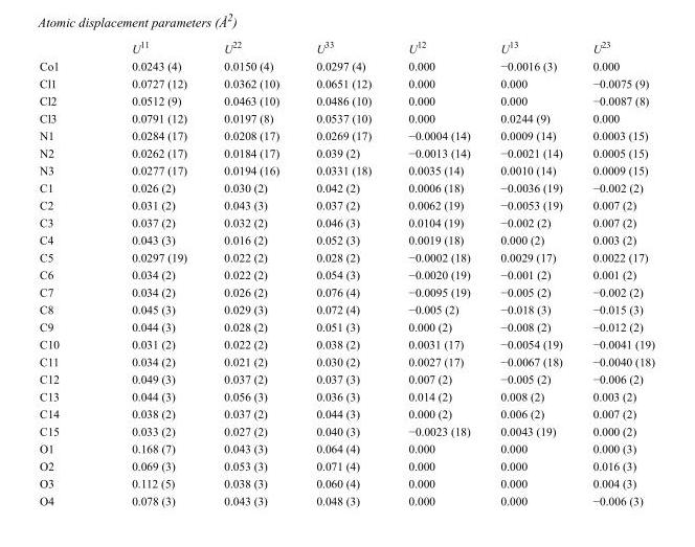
<table><thead><tr><td></td><td>U<sup>11</sup></td><td>U<sup>22</sup></td><td>U<sup>33</sup></td><td>U<sup>12</sup></td><td>U<sup>13</sup></td><td>U<sup>23</sup></td></tr></thead><tbody><tr><td>Co1</td><td>0.0243 (4)</td><td>0.0150 (4)</td><td>0.0297 (4)</td><td>0.000</td><td>−0.0016 (3)</td><td>0.000</td></tr><tr><td>Cl1</td><td>0.0727 (12)</td><td>0.0362 (10)</td><td>0.0651 (12)</td><td>0.000</td><td>0.000</td><td>−0.0075 (9)</td></tr><tr><td>Cl2</td><td>0.0512 (9)</td><td>0.0463 (10)</td><td>0.0486 (10)</td><td>0.000</td><td>0.000</td><td>−0.0087 (8)</td></tr><tr><td>Cl3</td><td>0.0791 (12)</td><td>0.0197 (8)</td><td>0.0537 (10)</td><td>0.000</td><td>0.0244 (9)</td><td>0.000</td></tr><tr><td>N1</td><td>0.0284 (17)</td><td>0.0208 (17)</td><td>0.0269 (17)</td><td>−0.0004 (14)</td><td>0.0009 (14)</td><td>0.0003 (15)</td></tr><tr><td>N2</td><td>0.0262 (17)</td><td>0.0184 (17)</td><td>0.039 (2)</td><td>−0.0013 (14)</td><td>−0.0021 (14)</td><td>0.0005 (15)</td></tr><tr><td>N3</td><td>0.0277 (17)</td><td>0.0194 (16)</td><td>0.0331 (18)</td><td>0.0035 (14)</td><td>0.0010 (14)</td><td>0.0009 (15)</td></tr><tr><td>C1</td><td>0.026 (2)</td><td>0.030 (2)</td><td>0.042 (2)</td><td>0.0006 (18)</td><td>−0.0036 (19)</td><td>−0.002 (2)</td></tr><tr><td>C2</td><td>0.031 (2)</td><td>0.043 (3)</td><td>0.037 (2)</td><td>0.0062 (19)</td><td>−0.0053 (19)</td><td>0.007 (2)</td></tr><tr><td>C3</td><td>0.037 (2)</td><td>0.032 (2)</td><td>0.046 (3)</td><td>0.0104 (19)</td><td>−0.002 (2)</td><td>0.007 (2)</td></tr><tr><td>C4</td><td>0.043 (3)</td><td>0.016 (2)</td><td>0.052 (3)</td><td>0.0019 (18)</td><td>0.000 (2)</td><td>0.003 (2)</td></tr><tr><td>C5</td><td>0.0297 (19)</td><td>0.022 (2)</td><td>0.028 (2)</td><td>−0.0002 (18)</td><td>0.0029 (17)</td><td>0.0022 (17)</td></tr><tr><td>C6</td><td>0.034 (2)</td><td>0.022 (2)</td><td>0.054 (3)</td><td>−0.0020 (19)</td><td>−0.001 (2)</td><td>0.001 (2)</td></tr><tr><td>C7</td><td>0.034 (2)</td><td>0.026 (2)</td><td>0.076 (4)</td><td>−0.0095 (19)</td><td>−0.005 (2)</td><td>−0.002 (2)</td></tr><tr><td>C8</td><td>0.045 (3)</td><td>0.029 (3)</td><td>0.072 (4)</td><td>−0.005 (2)</td><td>−0.018 (3)</td><td>−0.015 (3)</td></tr><tr><td>C9</td><td>0.044 (3)</td><td>0.028 (2)</td><td>0.051 (3)</td><td>0.000 (2)</td><td>−0.008 (2)</td><td>−0.012 (2)</td></tr><tr><td>C10</td><td>0.031 (2)</td><td>0.022 (2)</td><td>0.038 (2)</td><td>0.0031 (17)</td><td>−0.0054 (19)</td><td>−0.0041 (19)</td></tr><tr><td>C11</td><td>0.034 (2)</td><td>0.021 (2)</td><td>0.030 (2)</td><td>0.0027 (17)</td><td>−0.0067 (18)</td><td>−0.0040 (18)</td></tr><tr><td>C12</td><td>0.049 (3)</td><td>0.037 (2)</td><td>0.037 (3)</td><td>0.007 (2)</td><td>−0.005 (2)</td><td>−0.006 (2)</td></tr><tr><td>C13</td><td>0.044 (3)</td><td>0.056 (3)</td><td>0.036 (3)</td><td>0.014 (2)</td><td>0.008 (2)</td><td>0.003 (2)</td></tr><tr><td>C14</td><td>0.038 (2)</td><td>0.037 (2)</td><td>0.044 (3)</td><td>0.000 (2)</td><td>0.006 (2)</td><td>0.007 (2)</td></tr><tr><td>C15</td><td>0.033 (2)</td><td>0.027 (2)</td><td>0.040 (3)</td><td>−0.0023 (18)</td><td>0.0043 (19)</td><td>0.000 (2)</td></tr><tr><td>O1</td><td>0.168 (7)</td><td>0.043 (3)</td><td>0.064 (4)</td><td>0.000</td><td>0.000</td><td>0.000 (3)</td></tr><tr><td>O2</td><td>0.069 (3)</td><td>0.053 (3)</td><td>0.071 (4)</td><td>0.000</td><td>0.000</td><td>0.016 (3)</td></tr><tr><td>O3</td><td>0.112 (5)</td><td>0.038 (3)</td><td>0.060 (4)</td><td>0.000</td><td>0.000</td><td>0.004 (3)</td></tr><tr><td>O4</td><td>0.078 (3)</td><td>0.043 (3)</td><td>0.048 (3)</td><td>0.000</td><td>0.000</td><td>−0.006 (3)</td></tr></tbody></table>